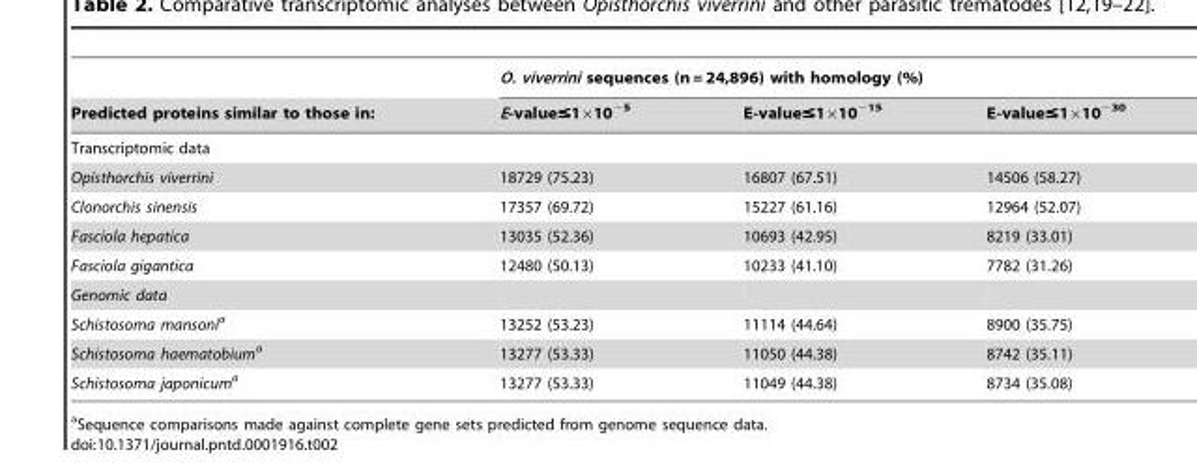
<table><thead><tr><td rowspan="2">Predicted proteins similar to those in:</td><td colspan="3">O. viverrini sequences (n = 24,896) with homology (%)</td></tr><tr><td>E-value≤1×10<sup>−5</sup></td><td>E-value≤1×10<sup>−15</sup></td><td>E-value≤1×10<sup>−30</sup></td></tr></thead><tbody><tr><td colspan="4">Transcriptomic data</td></tr><tr><td>Opisthorchis viverrini</td><td>18729 (75.23)</td><td>16807 (67.51)</td><td>14506 (58.27)</td></tr><tr><td>Clonorchis sinensis</td><td>17357 (69.72)</td><td>15227 (61.16)</td><td>12964 (52.07)</td></tr><tr><td>Fasciola hepatica</td><td>13035 (52.36)</td><td>10693 (42.95)</td><td>8219 (33.01)</td></tr><tr><td>Fasciola gigantica</td><td>12480 (50.13)</td><td>10233 (41.10)</td><td>7782 (31.26)</td></tr><tr><td colspan="4">Genomic data</td></tr><tr><td>Schistosoma mansonia</td><td>13252 (53.23)</td><td>11114 (44.64)</td><td>8900 (35.75)</td></tr><tr><td>Schistosoma haematobiuma</td><td>13277 (53.33)</td><td>11050 (44.38)</td><td>8742 (35.11)</td></tr><tr><td>Schistosoma japonicuma</td><td>13277 (53.33)</td><td>11049 (44.38)</td><td>8734 (35.08)</td></tr></tbody></table>